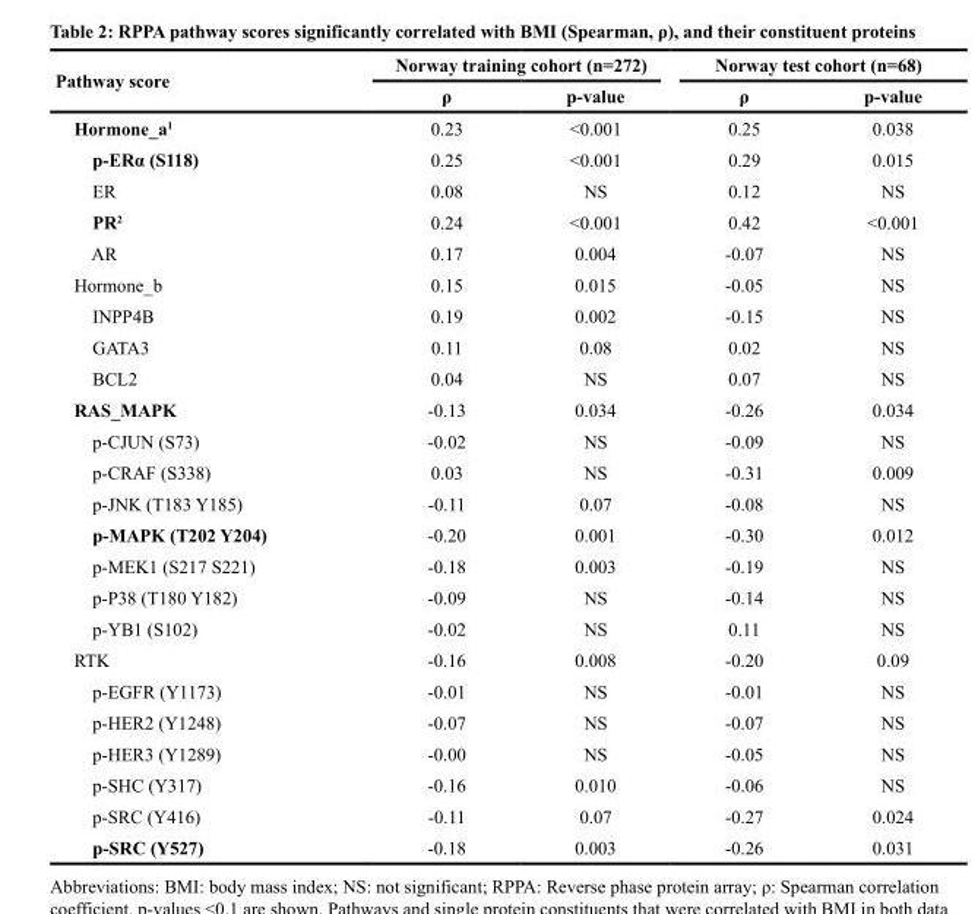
<table><thead><tr><td rowspan="2">Pathway score</td><td colspan="2">Norway training cohort (n=272)</td><td colspan="2">Norway test cohort (n=68)</td></tr><tr><td>ρ</td><td>p-value</td><td>ρ</td><td>p-value</td></tr></thead><tbody><tr><td>Hormone_a<sup>1</sup></td><td>0.23</td><td>&lt;0.001</td><td>0.25</td><td>0.038</td></tr><tr><td>p-ERα (S118)</td><td>0.25</td><td>&lt;0.001</td><td>0.29</td><td>0.015</td></tr><tr><td>ER</td><td>0.08</td><td>NS</td><td>0.12</td><td>NS</td></tr><tr><td>PR<sup>2</sup></td><td>0.24</td><td>&lt;0.001</td><td>0.42</td><td>&lt;0.001</td></tr><tr><td>AR</td><td>0.17</td><td>0.004</td><td>-0.07</td><td>NS</td></tr><tr><td>Hormone_b</td><td>0.15</td><td>0.015</td><td>-0.05</td><td>NS</td></tr><tr><td>INPP4B</td><td>0.19</td><td>0.002</td><td>-0.15</td><td>NS</td></tr><tr><td>GATA3</td><td>0.11</td><td>0.08</td><td>0.02</td><td>NS</td></tr><tr><td>BCL2</td><td>0.04</td><td>NS</td><td>0.07</td><td>NS</td></tr><tr><td>RAS_MAPK</td><td>-0.13</td><td>0.034</td><td>-0.26</td><td>0.034</td></tr><tr><td>p-CJUN (S73)</td><td>-0.02</td><td>NS</td><td>-0.09</td><td>NS</td></tr><tr><td>p-CRAF (S338)</td><td>0.03</td><td>NS</td><td>-0.31</td><td>0.009</td></tr><tr><td>p-JNK (T183 Y185)</td><td>-0.11</td><td>0.07</td><td>-0.08</td><td>NS</td></tr><tr><td>p-MAPK (T202 Y204)</td><td>-0.20</td><td>0.001</td><td>-0.30</td><td>0.012</td></tr><tr><td>p-MEK1 (S217 S221)</td><td>-0.18</td><td>0.003</td><td>-0.19</td><td>NS</td></tr><tr><td>p-P38 (T180 Y182)</td><td>-0.09</td><td>NS</td><td>-0.14</td><td>NS</td></tr><tr><td>p-YB1 (S102)</td><td>-0.02</td><td>NS</td><td>0.11</td><td>NS</td></tr><tr><td>RTK</td><td>-0.16</td><td>0.008</td><td>-0.20</td><td>0.09</td></tr><tr><td>p-EGFR (Y1173)</td><td>-0.01</td><td>NS</td><td>-0.01</td><td>NS</td></tr><tr><td>p-HER2 (Y1248)</td><td>-0.07</td><td>NS</td><td>-0.07</td><td>NS</td></tr><tr><td>p-HER3 (Y1289)</td><td>-0.00</td><td>NS</td><td>-0.05</td><td>NS</td></tr><tr><td>p-SHC (Y317)</td><td>-0.16</td><td>0.010</td><td>-0.06</td><td>NS</td></tr><tr><td>p-SRC (Y416)</td><td>-0.11</td><td>0.07</td><td>-0.27</td><td>0.024</td></tr><tr><td>p-SRC (Y527)</td><td>-0.18</td><td>0.003</td><td>-0.26</td><td>0.031</td></tr></tbody></table>